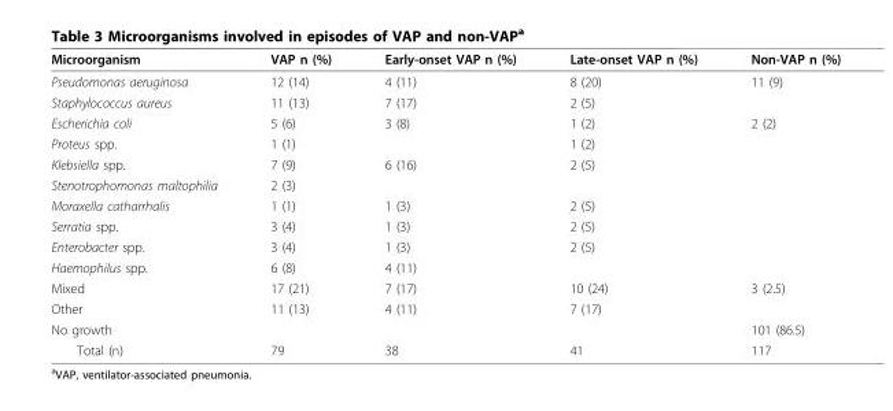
<table><thead><tr><td>Microorganism</td><td>VAP n (%)</td><td>Early-onset VAP n (%)</td><td>Late-onset VAP n (%)</td><td>Non-VAP n (%)</td></tr></thead><tbody><tr><td>Pseudomonas aeruginosa</td><td>12 (14)</td><td>4 (11)</td><td>8 (20)</td><td>11 (9)</td></tr><tr><td>Staphylococcus aureus</td><td>11 (13)</td><td>7 (17)</td><td>2 (5)</td><td></td></tr><tr><td>Escherichia coli</td><td>5 (6)</td><td>3 (8)</td><td>1 (2)</td><td>2 (2)</td></tr><tr><td>Proteus spp.</td><td>1 (1)</td><td></td><td>1 (2)</td><td></td></tr><tr><td>Klebsiella spp.</td><td>7 (9)</td><td>6 (16)</td><td>2 (5)</td><td></td></tr><tr><td>Stenotrophomonas maltophilia</td><td>2 (3)</td><td></td><td></td><td></td></tr><tr><td>Moraxella catharrhalis</td><td>1 (1)</td><td>1 (3)</td><td>2 (5)</td><td></td></tr><tr><td>Serratia spp.</td><td>3 (4)</td><td>1 (3)</td><td>2 (5)</td><td></td></tr><tr><td>Enterobacter spp.</td><td>3 (4)</td><td>1 (3)</td><td>2 (5)</td><td></td></tr><tr><td>Haemophilus spp.</td><td>6 (8)</td><td>4 (11)</td><td></td><td></td></tr><tr><td>Mixed</td><td>17 (21)</td><td>7 (17)</td><td>10 (24)</td><td>3 (2.5)</td></tr><tr><td>Other</td><td>11 (13)</td><td>4 (11)</td><td>7 (17)</td><td></td></tr><tr><td>No growth</td><td></td><td></td><td></td><td>101 (86.5)</td></tr><tr><td>Total (n)</td><td>79</td><td>38</td><td>41</td><td>117</td></tr></tbody></table>